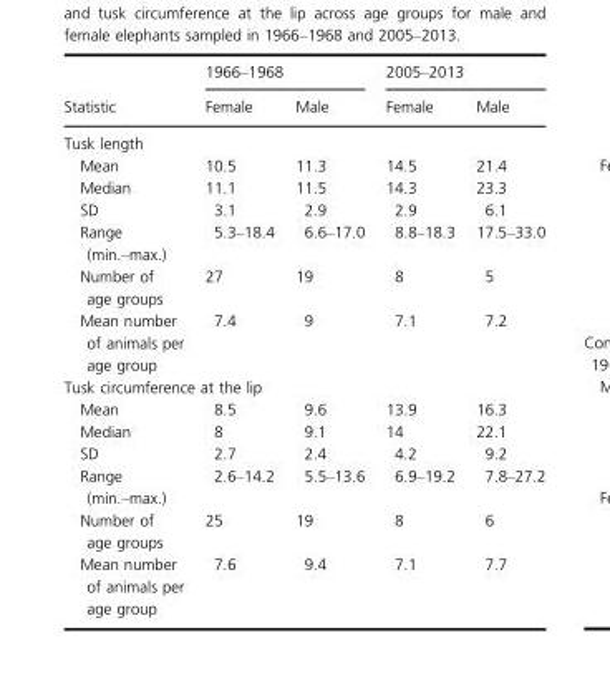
<table><thead><tr><td rowspan="2">Statistic</td><td colspan="2">1966–1968</td><td colspan="2">2005–2013</td></tr><tr><td>Female</td><td>Male</td><td>Female</td><td>Male</td></tr></thead><tbody><tr><td colspan="5">Tusk length</td></tr><tr><td>Mean</td><td>10.5</td><td>11.3</td><td>14.5</td><td>21.4</td></tr><tr><td>Median</td><td>11.1</td><td>11.5</td><td>14.3</td><td>23.3</td></tr><tr><td>SD</td><td>3.1</td><td>2.9</td><td>2.9</td><td>6.1</td></tr><tr><td>Range (min.–max.)</td><td>5.3–18.4</td><td>6.6–17.0</td><td>8.8–18.3</td><td>17.5–33.0</td></tr><tr><td>Number of age groups</td><td>27</td><td>19</td><td>8</td><td>5</td></tr><tr><td>Mean number of animals per age group</td><td>7.4</td><td>9</td><td>7.1</td><td>7.2</td></tr><tr><td colspan="5">Tusk circumference at the lip</td></tr><tr><td>Mean</td><td>8.5</td><td>9.6</td><td>13.9</td><td>16.3</td></tr><tr><td>Median</td><td>8</td><td>9.1</td><td>14</td><td>22.1</td></tr><tr><td>SD</td><td>2.7</td><td>2.4</td><td>4.2</td><td>9.2</td></tr><tr><td>Range (min.–max.)</td><td>2.6–14.2</td><td>5.5–13.6</td><td>6.9–19.2</td><td>7.8–27.2</td></tr><tr><td>Number of age groups</td><td>25</td><td>19</td><td>8</td><td>6</td></tr><tr><td>Mean number of animals per age group</td><td>7.6</td><td>9.4</td><td>7.1</td><td>7.7</td></tr></tbody></table>